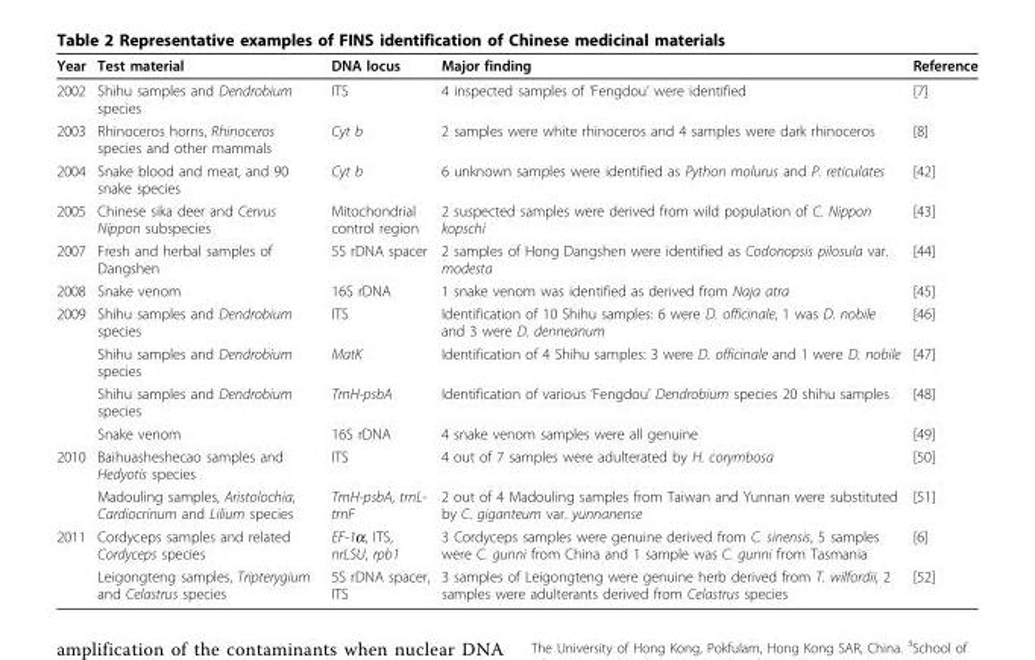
<table><thead><tr><td>Year</td><td>Test material</td><td>DNA locus</td><td>Major finding</td><td>Reference</td></tr></thead><tbody><tr><td>2002</td><td>Shihu samples and Dendrobium species</td><td>ITS</td><td>4 inspected samples of ‘Fengdou’ were identified</td><td>[7]</td></tr><tr><td>2003</td><td>Rhinoceros horns, Rhinoceros species and other mammals</td><td>Cyt b</td><td>2 samples were white rhinoceros and 4 samples were dark rhinoceros</td><td>[8]</td></tr><tr><td>2004</td><td>Snake blood and meat, and 90 snake species</td><td>Cyt b</td><td>6 unknown samples were identified as Python molurus and P. reticulates</td><td>[42]</td></tr><tr><td>2005</td><td>Chinese sika deer and Cervus Nippon subspecies</td><td>Mitochondrial control region</td><td>2 suspected samples were derived from wild population of C. Nippon kopschi</td><td>[43]</td></tr><tr><td>2007</td><td>Fresh and herbal samples of Dangshen</td><td>5S rDNA spacer</td><td>2 samples of Hong Dangshen were identified as Codonopsis pilosula var. modesta</td><td>[44]</td></tr><tr><td>2008</td><td>Snake venom</td><td>16S rDNA</td><td>1 snake venom was identified as derived from Naja atra</td><td>[45]</td></tr><tr><td rowspan="4">2009</td><td>Shihu samples and Dendrobium species</td><td>ITS</td><td>Identification of 10 Shihu samples: 6 were D. officinale, 1 was D. nobile and 3 were D. denneanum</td><td>[46]</td></tr><tr><td>Shihu samples and Dendrobium species</td><td>MatK</td><td>Identification of 4 Shihu samples: 3 were D. officinale and 1 were D. nobile</td><td>[47]</td></tr><tr><td>Shihu samples and Dendrobium species</td><td>TrnH-psbA</td><td>Identification of various ‘Fengdou’ Dendrobium species 20 shihu samples</td><td>[48]</td></tr><tr><td>Snake venom</td><td>16S rDNA</td><td>4 snake venom samples were all genuine</td><td>[49]</td></tr><tr><td rowspan="2">2010</td><td>Baihuasheshecao samples and Hedyotis species</td><td>ITS</td><td>4 out of 7 samples were adulterated by H. corymbosa</td><td>[50]</td></tr><tr><td>Madouling samples, Aristolochia, Cardiocrinum and Lilium species</td><td>TrnH-psbA, trnL- trnF</td><td>2 out of 4 Madouling samples from Taiwan and Yunnan were substituted by C. giganteum var. yunnanense</td><td>[51]</td></tr><tr><td rowspan="2">2011</td><td>Cordyceps samples and related Cordyceps species</td><td>EF-1α, ITS, nrLSU, rpb1</td><td>3 Cordyceps samples were genuine derived from C. sinensis, 5 samples were C. gunni from China and 1 sample was C. gunni from Tasmania</td><td>[6]</td></tr><tr><td>Leigongteng samples, Tripterygium and Celastrus species</td><td>5S rDNA spacer, ITS</td><td>3 samples of Leigongteng were genuine herb derived from T. wilfordii, 2 samples were adulterants derived from Celastrus species</td><td>[52]</td></tr></tbody></table>